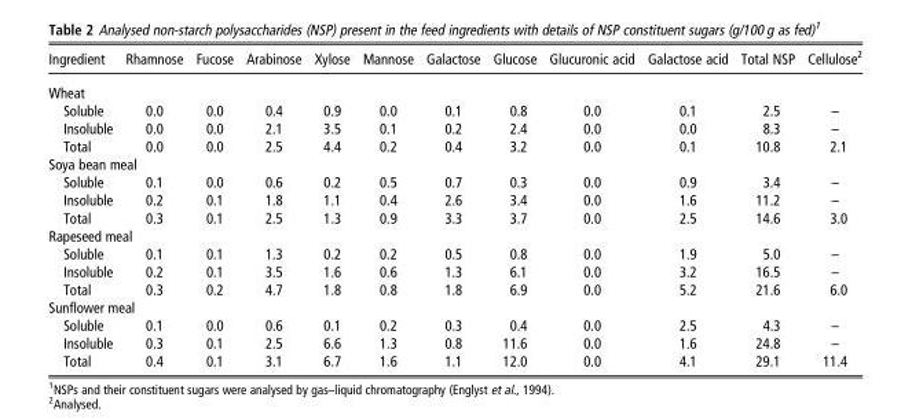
<table><thead><tr><td>Ingredient</td><td>Rhamnose</td><td>Fucose</td><td>Arabinose</td><td>Xylose</td><td>Mannose</td><td>Galactose</td><td>Glucose</td><td>Glucuronic acid</td><td>Galactose acid</td><td>Total NSP</td><td>Cellulose<sup>2</sup></td></tr></thead><tbody><tr><td colspan="12">Wheat</td></tr><tr><td>Soluble</td><td>0.0</td><td>0.0</td><td>0.4</td><td>0.9</td><td>0.0</td><td>0.1</td><td>0.8</td><td>0.0</td><td>0.1</td><td>2.5</td><td>–</td></tr><tr><td>Insoluble</td><td>0.0</td><td>0.0</td><td>2.1</td><td>3.5</td><td>0.1</td><td>0.2</td><td>2.4</td><td>0.0</td><td>0.0</td><td>8.3</td><td>–</td></tr><tr><td>Total</td><td>0.0</td><td>0.0</td><td>2.5</td><td>4.4</td><td>0.2</td><td>0.4</td><td>3.2</td><td>0.0</td><td>0.1</td><td>10.8</td><td>2.1</td></tr><tr><td colspan="12">Soya bean meal</td></tr><tr><td>Soluble</td><td>0.1</td><td>0.0</td><td>0.6</td><td>0.2</td><td>0.5</td><td>0.7</td><td>0.3</td><td>0.0</td><td>0.9</td><td>3.4</td><td>–</td></tr><tr><td>Insoluble</td><td>0.2</td><td>0.1</td><td>1.8</td><td>1.1</td><td>0.4</td><td>2.6</td><td>3.4</td><td>0.0</td><td>1.6</td><td>11.2</td><td>–</td></tr><tr><td>Total</td><td>0.3</td><td>0.1</td><td>2.5</td><td>1.3</td><td>0.9</td><td>3.3</td><td>3.7</td><td>0.0</td><td>2.5</td><td>14.6</td><td>3.0</td></tr><tr><td colspan="12">Rapeseed meal</td></tr><tr><td>Soluble</td><td>0.1</td><td>0.1</td><td>1.3</td><td>0.2</td><td>0.2</td><td>0.5</td><td>0.8</td><td>0.0</td><td>1.9</td><td>5.0</td><td>–</td></tr><tr><td>Insoluble</td><td>0.2</td><td>0.1</td><td>3.5</td><td>1.6</td><td>0.6</td><td>1.3</td><td>6.1</td><td>0.0</td><td>3.2</td><td>16.5</td><td>–</td></tr><tr><td>Total</td><td>0.3</td><td>0.2</td><td>4.7</td><td>1.8</td><td>0.8</td><td>1.8</td><td>6.9</td><td>0.0</td><td>5.2</td><td>21.6</td><td>6.0</td></tr><tr><td colspan="12">Sunflower meal</td></tr><tr><td>Soluble</td><td>0.1</td><td>0.0</td><td>0.6</td><td>0.1</td><td>0.2</td><td>0.3</td><td>0.4</td><td>0.0</td><td>2.5</td><td>4.3</td><td>–</td></tr><tr><td>Insoluble</td><td>0.3</td><td>0.1</td><td>2.5</td><td>6.6</td><td>1.3</td><td>0.8</td><td>11.6</td><td>0.0</td><td>1.6</td><td>24.8</td><td>–</td></tr><tr><td>Total</td><td>0.4</td><td>0.1</td><td>3.1</td><td>6.7</td><td>1.6</td><td>1.1</td><td>12.0</td><td>0.0</td><td>4.1</td><td>29.1</td><td>11.4</td></tr></tbody></table>